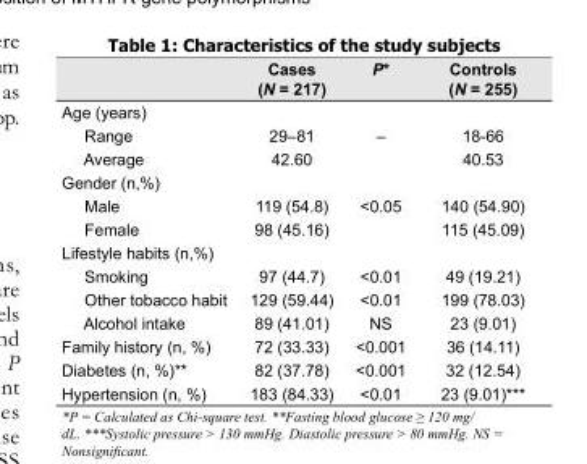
<table><thead><tr><td></td><td>Cases (N = 217)</td><td>P*</td><td>Controls (N = 255)</td></tr></thead><tbody><tr><td colspan="4">Age (years)</td></tr><tr><td>Range</td><td>29–81</td><td>–</td><td>18-66</td></tr><tr><td>Average</td><td>42.60</td><td></td><td>40.53</td></tr><tr><td colspan="4">Gender (n,%)</td></tr><tr><td>Male</td><td>119 (54.8)</td><td>&lt;0.05</td><td>140 (54.90)</td></tr><tr><td>Female</td><td>98 (45.16)</td><td></td><td>115 (45.09)</td></tr><tr><td colspan="4">Lifestyle habits (n,%)</td></tr><tr><td>Smoking</td><td>97 (44.7)</td><td>&lt;0.01</td><td>49 (19.21)</td></tr><tr><td>Other tobacco habit</td><td>129 (59.44)</td><td>&lt;0.01</td><td>199 (78.03)</td></tr><tr><td>Alcohol intake</td><td>89 (41.01)</td><td>NS</td><td>23 (9.01)</td></tr><tr><td>Family history (n, %)</td><td>72 (33.33)</td><td>&lt;0.001</td><td>36 (14.11)</td></tr><tr><td>Diabetes (n, %)**</td><td>82 (37.78)</td><td>&lt;0.001</td><td>32 (12.54)</td></tr><tr><td>Hypertension (n, %)</td><td>183 (84.33)</td><td>&lt;0.01</td><td>23 (9.01)***</td></tr></tbody></table>